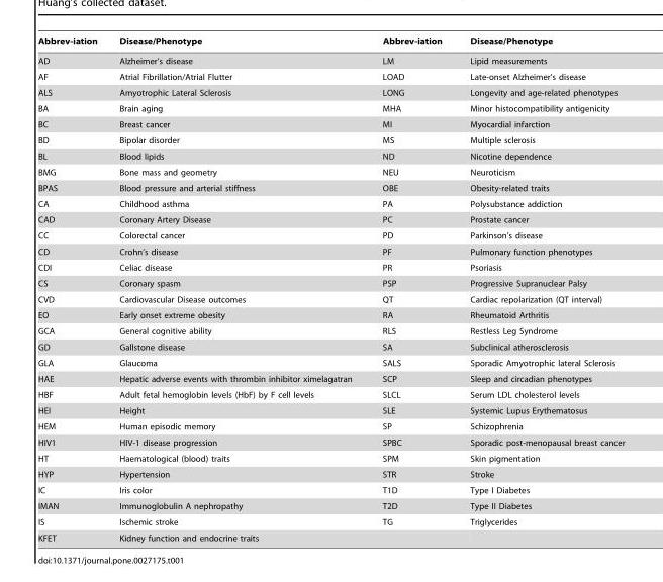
<table><thead><tr><td>Abbrev-iation</td><td>Disease/Phenotype</td><td>Abbrev-iation</td><td>Disease/Phenotype</td></tr></thead><tbody><tr><td>AD</td><td>Alzheimer’s disease</td><td>LM</td><td>Lipid measurements</td></tr><tr><td>AF</td><td>Atrial Fibrillation/Atrial Flutter</td><td>LOAD</td><td>Late-onset Alzheimer’s disease</td></tr><tr><td>ALS</td><td>Amyotrophic Lateral Sclerosis</td><td>LONG</td><td>Longevity and age-related phenotypes</td></tr><tr><td>BA</td><td>Brain aging</td><td>MHA</td><td>Minor histocompatibility antigenicity</td></tr><tr><td>BC</td><td>Breast cancer</td><td>MI</td><td>Myocardial infarction</td></tr><tr><td>BD</td><td>Bipolar disorder</td><td>MS</td><td>Multiple sclerosis</td></tr><tr><td>BL</td><td>Blood lipids</td><td>ND</td><td>Nicotine dependence</td></tr><tr><td>BMG</td><td>Bone mass and geometry</td><td>NEU</td><td>Neuroticism</td></tr><tr><td>BPAS</td><td>Blood pressure and arterial stiffness</td><td>OBE</td><td>Obesity-related traits</td></tr><tr><td>CA</td><td>Childhood asthma</td><td>PA</td><td>Polysubstance addiction</td></tr><tr><td>CAD</td><td>Coronary Artery Disease</td><td>PC</td><td>Prostate cancer</td></tr><tr><td>CC</td><td>Colorectal cancer</td><td>PD</td><td>Parkinson’s disease</td></tr><tr><td>CD</td><td>Crohn’s disease</td><td>PF</td><td>Pulmonary function phenotypes</td></tr><tr><td>CDI</td><td>Celiac disease</td><td>PR</td><td>Psoriasis</td></tr><tr><td>CS</td><td>Coronary spasm</td><td>PSP</td><td>Progressive Supranuclear Palsy</td></tr><tr><td>CVD</td><td>Cardiovascular Disease outcomes</td><td>QT</td><td>Cardiac repolarization (QT interval)</td></tr><tr><td>EO</td><td>Early onset extreme obesity</td><td>RA</td><td>Rheumatoid Arthritis</td></tr><tr><td>GCA</td><td>General cognitive ability</td><td>RLS</td><td>Restless Leg Syndrome</td></tr><tr><td>GD</td><td>Gallstone disease</td><td>SA</td><td>Subclinical atherosclerosis</td></tr><tr><td>GLA</td><td>Glaucoma</td><td>SALS</td><td>Sporadic Amyotrophic lateral Sclerosis</td></tr><tr><td>HAE</td><td>Hepatic adverse events with thrombin inhibitor ximelagatran</td><td>SCP</td><td>Sleep and circadian phenotypes</td></tr><tr><td>HBF</td><td>Adult fetal hemoglobin levels (HbF) by F cell levels</td><td>SLCL</td><td>Serum LDL cholesterol levels</td></tr><tr><td>HEI</td><td>Height</td><td>SLE</td><td>Systemic Lupus Erythematosus</td></tr><tr><td>HEM</td><td>Human episodic memory</td><td>SP</td><td>Schizophrenia</td></tr><tr><td>HIV1</td><td>HIV-1 disease progression</td><td>SPBC</td><td>Sporadic post-menopausal breast cancer</td></tr><tr><td>HT</td><td>Haematological (blood) traits</td><td>SPM</td><td>Skin pigmentation</td></tr><tr><td>HYP</td><td>Hypertension</td><td>STR</td><td>Stroke</td></tr><tr><td>IC</td><td>Iris color</td><td>T1D</td><td>Type I Diabetes</td></tr><tr><td>IMAN</td><td>Immunoglobulin A nephropathy</td><td>T2D</td><td>Type II Diabetes</td></tr><tr><td>IS</td><td>Ischemic stroke</td><td>TG</td><td>Triglycerides</td></tr><tr><td>KFET</td><td>Kidney function and endocrine traits</td><td></td><td></td></tr></tbody></table>